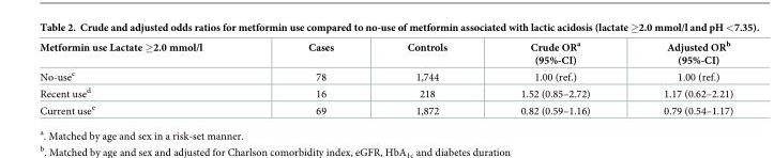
<table><thead><tr><td>Metformin use Lactate ≥2.0 mmol/l</td><td>Cases</td><td>Controls</td><td>Crude OR<sup>a</sup> (95%-CI)</td><td>Adjusted OR<sup>b</sup> (95%-CI)</td></tr></thead><tbody><tr><td>No-use<sup>c</sup></td><td>78</td><td>1,744</td><td>1.00 (ref.)</td><td>1.00 (ref.)</td></tr><tr><td>Recent use<sup>d</sup></td><td>16</td><td>218</td><td>1.52 (0.85–2.72)</td><td>1.17 (0.62–2.21)</td></tr><tr><td>Current use<sup>e</sup></td><td>69</td><td>1,872</td><td>0.82 (0.59–1.16)</td><td>0.79 (0.54–1.17)</td></tr></tbody></table>